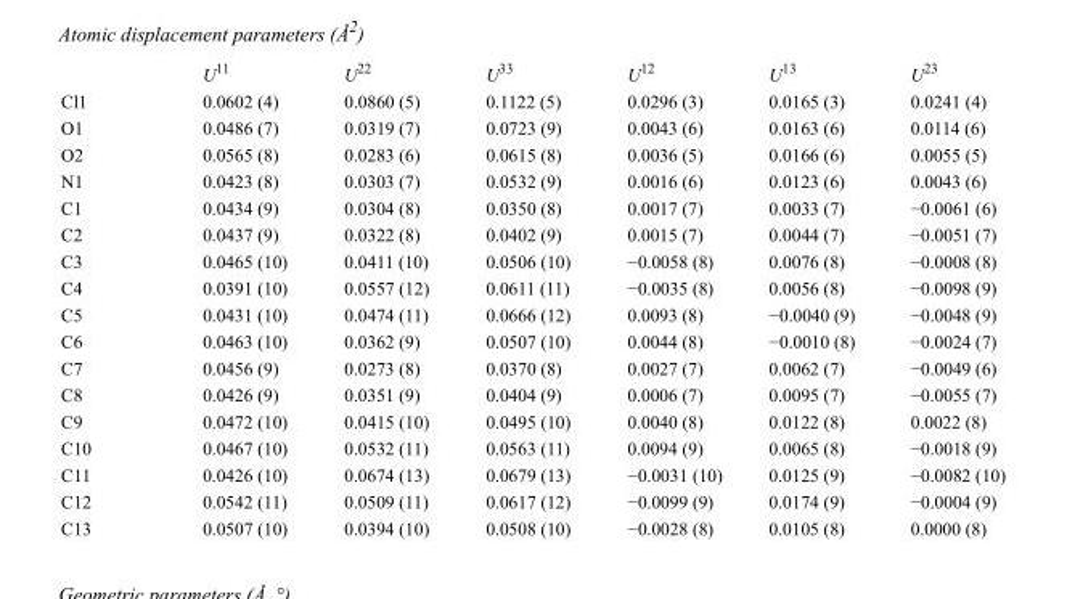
<table><thead><tr><td></td><td>U<sup>11</sup></td><td>U<sup>22</sup></td><td>U<sup>33</sup></td><td>U<sup>12</sup></td><td>U<sup>13</sup></td><td>U<sup>23</sup></td></tr></thead><tbody><tr><td>Cl1</td><td>0.0602 (4)</td><td>0.0860 (5)</td><td>0.1122 (5)</td><td>0.0296 (3)</td><td>0.0165 (3)</td><td>0.0241 (4)</td></tr><tr><td>O1</td><td>0.0486 (7)</td><td>0.0319 (7)</td><td>0.0723 (9)</td><td>0.0043 (6)</td><td>0.0163 (6)</td><td>0.0114 (6)</td></tr><tr><td>O2</td><td>0.0565 (8)</td><td>0.0283 (6)</td><td>0.0615 (8)</td><td>0.0036 (5)</td><td>0.0166 (6)</td><td>0.0055 (5)</td></tr><tr><td>N1</td><td>0.0423 (8)</td><td>0.0303 (7)</td><td>0.0532 (9)</td><td>0.0016 (6)</td><td>0.0123 (6)</td><td>0.0043 (6)</td></tr><tr><td>C1</td><td>0.0434 (9)</td><td>0.0304 (8)</td><td>0.0350 (8)</td><td>0.0017 (7)</td><td>0.0033 (7)</td><td>−0.0061 (6)</td></tr><tr><td>C2</td><td>0.0437 (9)</td><td>0.0322 (8)</td><td>0.0402 (9)</td><td>0.0015 (7)</td><td>0.0044 (7)</td><td>−0.0051 (7)</td></tr><tr><td>C3</td><td>0.0465 (10)</td><td>0.0411 (10)</td><td>0.0506 (10)</td><td>−0.0058 (8)</td><td>0.0076 (8)</td><td>−0.0008 (8)</td></tr><tr><td>C4</td><td>0.0391 (10)</td><td>0.0557 (12)</td><td>0.0611 (11)</td><td>−0.0035 (8)</td><td>0.0056 (8)</td><td>−0.0098 (9)</td></tr><tr><td>C5</td><td>0.0431 (10)</td><td>0.0474 (11)</td><td>0.0666 (12)</td><td>0.0093 (8)</td><td>−0.0040 (9)</td><td>−0.0048 (9)</td></tr><tr><td>C6</td><td>0.0463 (10)</td><td>0.0362 (9)</td><td>0.0507 (10)</td><td>0.0044 (8)</td><td>−0.0010 (8)</td><td>−0.0024 (7)</td></tr><tr><td>C7</td><td>0.0456 (9)</td><td>0.0273 (8)</td><td>0.0370 (8)</td><td>0.0027 (7)</td><td>0.0062 (7)</td><td>−0.0049 (6)</td></tr><tr><td>C8</td><td>0.0426 (9)</td><td>0.0351 (9)</td><td>0.0404 (9)</td><td>0.0006 (7)</td><td>0.0095 (7)</td><td>−0.0055 (7)</td></tr><tr><td>C9</td><td>0.0472 (10)</td><td>0.0415 (10)</td><td>0.0495 (10)</td><td>0.0040 (8)</td><td>0.0122 (8)</td><td>0.0022 (8)</td></tr><tr><td>C10</td><td>0.0467 (10)</td><td>0.0532 (11)</td><td>0.0563 (11)</td><td>0.0094 (9)</td><td>0.0065 (8)</td><td>−0.0018 (9)</td></tr><tr><td>C11</td><td>0.0426 (10)</td><td>0.0674 (13)</td><td>0.0679 (13)</td><td>−0.0031 (10)</td><td>0.0125 (9)</td><td>−0.0082 (10)</td></tr><tr><td>C12</td><td>0.0542 (11)</td><td>0.0509 (11)</td><td>0.0617 (12)</td><td>−0.0099 (9)</td><td>0.0174 (9)</td><td>−0.0004 (9)</td></tr><tr><td>C13</td><td>0.0507 (10)</td><td>0.0394 (10)</td><td>0.0508 (10)</td><td>−0.0028 (8)</td><td>0.0105 (8)</td><td>0.0000 (8)</td></tr></tbody></table>